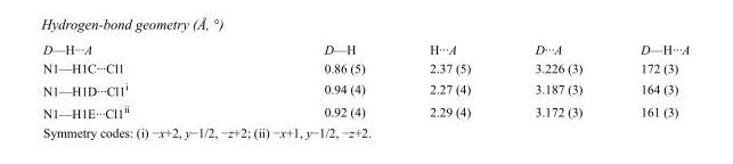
<table><tbody><tr><td>D—H···A</td><td>D—H</td><td>H···A</td><td>D···A</td><td>D—H···A</td></tr><tr><td>N1—H1C···Cl1</td><td>0.86 (5)</td><td>2.37 (5)</td><td>3.226 (3)</td><td>172 (3)</td></tr><tr><td>N1—H1D···Cl1<sup>i</sup></td><td>0.94 (4)</td><td>2.27 (4)</td><td>3.187 (3)</td><td>164 (3)</td></tr><tr><td>N1—H1E···Cl1<sup>ii</sup></td><td>0.92 (4)</td><td>2.29 (4)</td><td>3.172 (3)</td><td>161 (3)</td></tr></tbody></table>